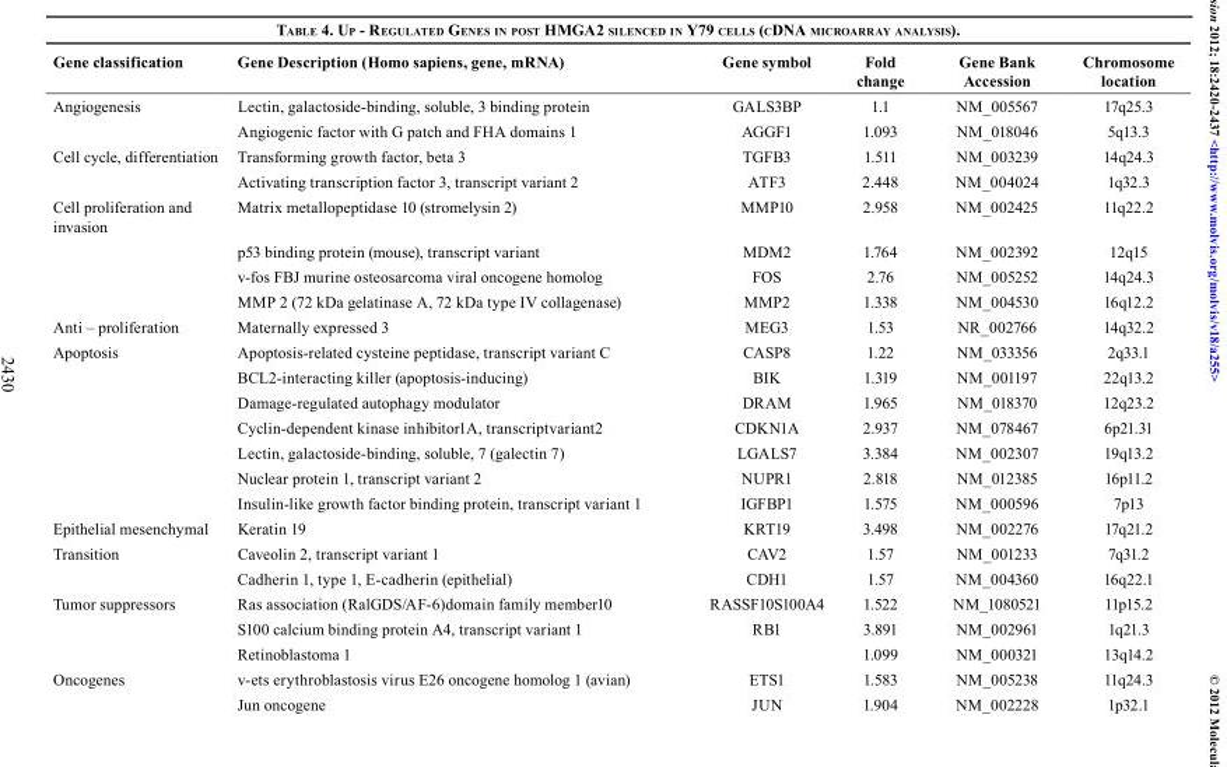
<table><thead><tr><td>Gene classification</td><td>Gene Description (Homo sapiens, gene, mRNA)</td><td>Gene symbol</td><td>Fold change</td><td>Gene Bank Accession</td><td>Chromosome location</td></tr></thead><tbody><tr><td rowspan="2">Angiogenesis</td><td>Lectin, galactoside-binding, soluble, 3 binding protein</td><td>GALS3BP</td><td>1.1</td><td>NM_005567</td><td>17q25.3</td></tr><tr><td>Angiogenic factor with G patch and FHA domains 1</td><td>AGGF1</td><td>1.093</td><td>NM_018046</td><td>5q13.3</td></tr><tr><td rowspan="2">Cell cycle, differentiation</td><td>Transforming growth factor, beta 3</td><td>TGFB3</td><td>1.511</td><td>NM_003239</td><td>14q24.3</td></tr><tr><td>Activating transcription factor 3, transcript variant 2</td><td>ATF3</td><td>2.448</td><td>NM_004024</td><td>1q32.3</td></tr><tr><td rowspan="4">Cell proliferation and invasion</td><td>Matrix metallopeptidase 10 (stromelysin 2)</td><td>MMP10</td><td>2.958</td><td>NM_002425</td><td>11q22.2</td></tr><tr><td>p53 binding protein (mouse), transcript variant</td><td>MDM2</td><td>1.764</td><td>NM_002392</td><td>12q15</td></tr><tr><td>v-fos FBJ murine osteosarcoma viral oncogene homolog</td><td>FOS</td><td>2.76</td><td>NM_005252</td><td>14q24.3</td></tr><tr><td>MMP 2 (72 kDa gelatinase A, 72 kDa type IV collagenase)</td><td>MMP2</td><td>1.338</td><td>NM_004530</td><td>16q12.2</td></tr><tr><td>Anti – proliferation</td><td>Maternally expressed 3</td><td>MEG3</td><td>1.53</td><td>NR_002766</td><td>14q32.2</td></tr><tr><td rowspan="7">Apoptosis</td><td>Apoptosis-related cysteine peptidase, transcript variant C</td><td>CASP8</td><td>1.22</td><td>NM_033356</td><td>2q33.1</td></tr><tr><td>BCL2-interacting killer (apoptosis-inducing)</td><td>BIK</td><td>1.319</td><td>NM_001197</td><td>22q13.2</td></tr><tr><td>Damage-regulated autophagy modulator</td><td>DRAM</td><td>1.965</td><td>NM_018370</td><td>12q23.2</td></tr><tr><td>Cyclin-dependent kinase inhibitor1A, transcriptvariant2</td><td>CDKN1A</td><td>2.937</td><td>NM_078467</td><td>6p21.31</td></tr><tr><td>Lectin, galactoside-binding, soluble, 7 (galectin 7)</td><td>LGALS7</td><td>3.384</td><td>NM_002307</td><td>19q13.2</td></tr><tr><td>Nuclear protein 1, transcript variant 2</td><td>NUPR1</td><td>2.818</td><td>NM_012385</td><td>16p11.2</td></tr><tr><td>Insulin-like growth factor binding protein, transcript variant 1</td><td>IGFBP1</td><td>1.575</td><td>NM_000596</td><td>7p13</td></tr><tr><td>Epithelial mesenchymal</td><td>Keratin 19</td><td>KRT19</td><td>3.498</td><td>NM_002276</td><td>17q21.2</td></tr><tr><td rowspan="2">Transition</td><td>Caveolin 2, transcript variant 1</td><td>CAV2</td><td>1.57</td><td>NM_001233</td><td>7q31.2</td></tr><tr><td>Cadherin 1, type 1, E-cadherin (epithelial)</td><td>CDH1</td><td>1.57</td><td>NM_004360</td><td>16q22.1</td></tr><tr><td rowspan="3">Tumor suppressors</td><td>Ras association (RalGDS/AF-6)domain family member10</td><td>RASSF10S100A4</td><td>1.522</td><td>NM_1080521</td><td>11p15.2</td></tr><tr><td>S100 calcium binding protein A4, transcript variant 1</td><td>RB1</td><td>3.891</td><td>NM_002961</td><td>1q21.3</td></tr><tr><td>Retinoblastoma 1</td><td></td><td>1.099</td><td>NM_000321</td><td>13q14.2</td></tr><tr><td rowspan="2">Oncogenes</td><td>v-ets erythroblastosis virus E26 oncogene homolog 1 (avian)</td><td>ETS1</td><td>1.583</td><td>NM_005238</td><td>11q24.3</td></tr><tr><td>Jun oncogene</td><td>JUN</td><td>1.904</td><td>NM_002228</td><td>1p32.1</td></tr></tbody></table>